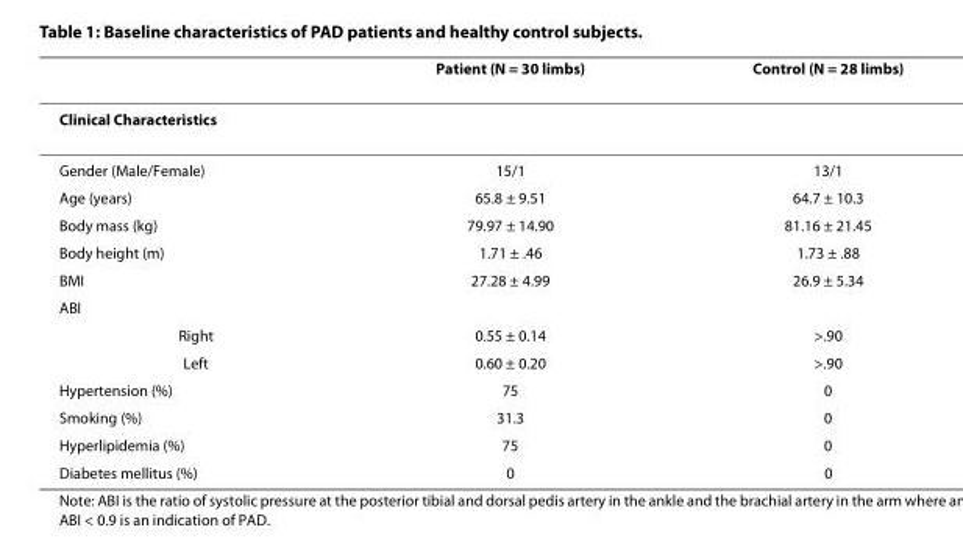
<table><thead><tr><td></td><td>Patient (N = 30 limbs)</td><td>Control (N = 28 limbs)</td></tr></thead><tbody><tr><td colspan="3">Clinical Characteristics</td></tr><tr><td>Gender (Male/Female)</td><td>15/1</td><td>13/1</td></tr><tr><td>Age (years)</td><td>65.8 ± 9.51</td><td>64.7 ± 10.3</td></tr><tr><td>Body mass (kg)</td><td>79.97 ± 14.90</td><td>81.16 ± 21.45</td></tr><tr><td>Body height (m)</td><td>1.71 ± .46</td><td>1.73 ± .88</td></tr><tr><td>BMI</td><td>27.28 ± 4.99</td><td>26.9 ± 5.34</td></tr><tr><td colspan="3">ABI</td></tr><tr><td>Right</td><td>0.55 ± 0.14</td><td>&gt;.90</td></tr><tr><td>Left</td><td>0.60 ± 0.20</td><td>&gt;.90</td></tr><tr><td>Hypertension (%)</td><td>75</td><td>0</td></tr><tr><td>Smoking (%)</td><td>31.3</td><td>0</td></tr><tr><td>Hyperlipidemia (%)</td><td>75</td><td>0</td></tr><tr><td>Diabetes mellitus (%)</td><td>0</td><td>0</td></tr></tbody></table>